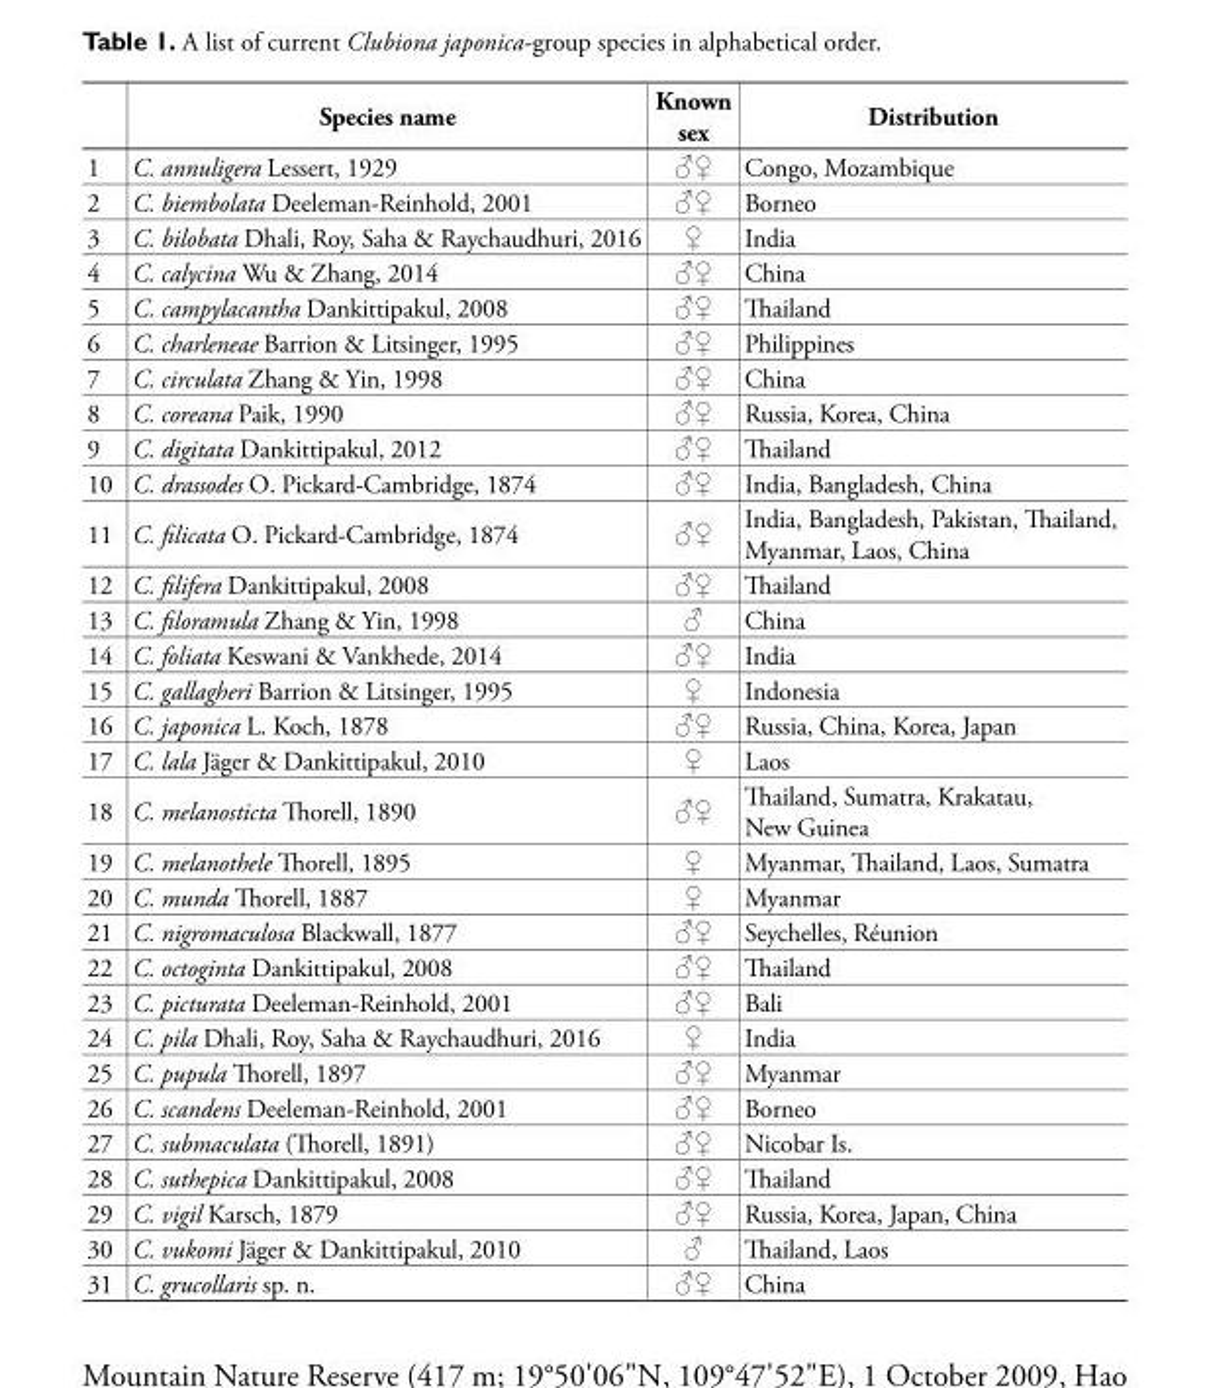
<table><thead><tr><td></td><td>Species name</td><td>Known sex</td><td>Distribution</td></tr></thead><tbody><tr><td>1</td><td>C. annuligera Lessert, 1929</td><td>♂♀</td><td>Congo, Mozambique</td></tr><tr><td>2</td><td>C. biembolata Deeleman-Reinhold, 2001</td><td>♂♀</td><td>Borneo</td></tr><tr><td>3</td><td>C. bilobata Dhali, Roy, Saha &amp; Raychaudhuri, 2016</td><td>♀</td><td>India</td></tr><tr><td>4</td><td>C. calycina Wu &amp; Zhang, 2014</td><td>♂♀</td><td>China</td></tr><tr><td>5</td><td>C. campylacantha Dankittipakul, 2008</td><td>♂♀</td><td>Thailand</td></tr><tr><td>6</td><td>C. charleneae Barrion &amp; Litsinger, 1995</td><td>♂♀</td><td>Philippines</td></tr><tr><td>7</td><td>C. circulata Zhang &amp; Yin, 1998</td><td>♂♀</td><td>China</td></tr><tr><td>8</td><td>C. coreana Paik, 1990</td><td>♂♀</td><td>Russia, Korea, China</td></tr><tr><td>9</td><td>C. digitata Dankittipakul, 2012</td><td>♂♀</td><td>Thailand</td></tr><tr><td>10</td><td>C. drassodes O. Pickard-Cambridge, 1874</td><td>♂♀</td><td>India, Bangladesh, China</td></tr><tr><td>11</td><td>C. filicata O. Pickard-Cambridge, 1874</td><td>♂♀</td><td>India, Bangladesh, Pakistan, Thailand, Myanmar, Laos, China</td></tr><tr><td>12</td><td>C. filifera Dankittipakul, 2008</td><td>♂♀</td><td>Thailand</td></tr><tr><td>13</td><td>C. filoramula Zhang &amp; Yin, 1998</td><td>♂</td><td>China</td></tr><tr><td>14</td><td>C. foliata Keswani &amp; Vankhede, 2014</td><td>♂♀</td><td>India</td></tr><tr><td>15</td><td>C. gallagheri Barrion &amp; Litsinger, 1995</td><td>♀</td><td>Indonesia</td></tr><tr><td>16</td><td>C. japonica L. Koch, 1878</td><td>♂♀</td><td>Russia, China, Korea, Japan</td></tr><tr><td>17</td><td>C. lala Jäger &amp; Dankittipakul, 2010</td><td>♀</td><td>Laos</td></tr><tr><td>18</td><td>C. melanosticta Thorell, 1890</td><td>♂♀</td><td>Thailand, Sumatra, Krakatau, New Guinea</td></tr><tr><td>19</td><td>C. melanothele Thorell, 1895</td><td>♀</td><td>Myanmar, Thailand, Laos, Sumatra</td></tr><tr><td>20</td><td>C. munda Thorell, 1887</td><td>♀</td><td>Myanmar</td></tr><tr><td>21</td><td>C. nigromaculosa Blackwall, 1877</td><td>♂♀</td><td>Seychelles, Réunion</td></tr><tr><td>22</td><td>C. octoginta Dankittipakul, 2008</td><td>♂♀</td><td>Thailand</td></tr><tr><td>23</td><td>C. picturata Deeleman-Reinhold, 2001</td><td>♂♀</td><td>Bali</td></tr><tr><td>24</td><td>C. pila Dhali, Roy, Saha &amp; Raychaudhuri, 2016</td><td>♀</td><td>India</td></tr><tr><td>25</td><td>C. pupula Thorell, 1897</td><td>♂♀</td><td>Myanmar</td></tr><tr><td>26</td><td>C. scandens Deeleman-Reinhold, 2001</td><td>♂♀</td><td>Borneo</td></tr><tr><td>27</td><td>C. submaculata (Thorell, 1891)</td><td>♂♀</td><td>Nicobar Is.</td></tr><tr><td>28</td><td>C. suthepica Dankittipakul, 2008</td><td>♂♀</td><td>Thailand</td></tr><tr><td>29</td><td>C. vigil Karsch, 1879</td><td>♂♀</td><td>Russia, Korea, Japan, China</td></tr><tr><td>30</td><td>C. vukomi Jäger &amp; Dankittipakul, 2010</td><td>♂</td><td>Thailand, Laos</td></tr><tr><td>31</td><td>C. grucollaris sp. n.</td><td>♂♀</td><td>China</td></tr></tbody></table>